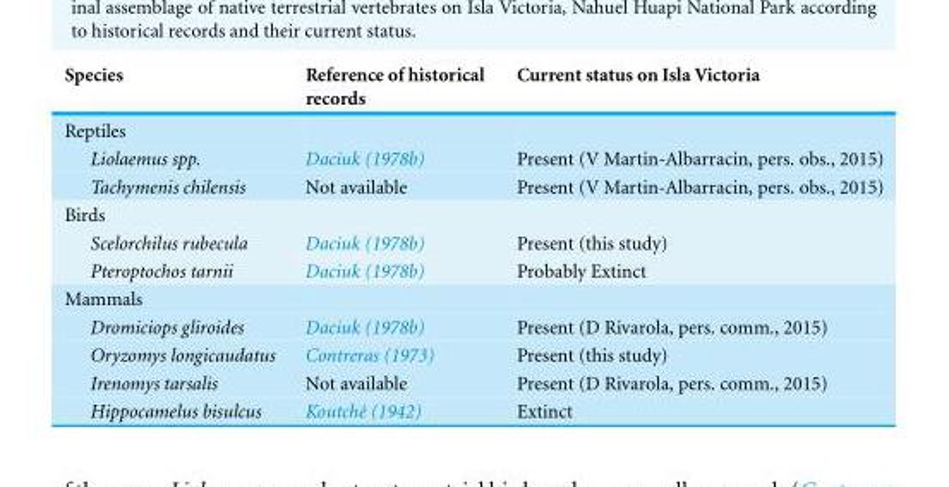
<table><thead><tr><td>Species</td><td>Reference of historical records</td><td>Current status on Isla Victoria</td></tr></thead><tbody><tr><td colspan="3">Reptiles</td></tr><tr><td>Liolaemus spp.</td><td>Daciuk (1978b)</td><td>Present (V Martin-Albarracin, pers. obs., 2015)</td></tr><tr><td>Tachymenis chilensis</td><td>Not available</td><td>Present (V Martin-Albarracin, pers. obs., 2015)</td></tr><tr><td colspan="3">Birds</td></tr><tr><td>Scelorchilus rubecula</td><td>Daciuk (1978b)</td><td>Present (this study)</td></tr><tr><td>Pteroptochos tarnii</td><td>Daciuk (1978b)</td><td>Probably Extinct</td></tr><tr><td colspan="3">Mammals</td></tr><tr><td>Dromiciops gliroides</td><td>Daciuk (1978b)</td><td>Present (D Rivarola, pers. comm., 2015)</td></tr><tr><td>Oryzomys longicaudatus</td><td>Contreras (1973)</td><td>Present (this study)</td></tr><tr><td>Irenomys tarsalis</td><td>Not available</td><td>Present (D Rivarola, pers. comm., 2015)</td></tr><tr><td>Hippocamelus bisulcus</td><td>Koutch´e (1942)</td><td>Extinct</td></tr></tbody></table>